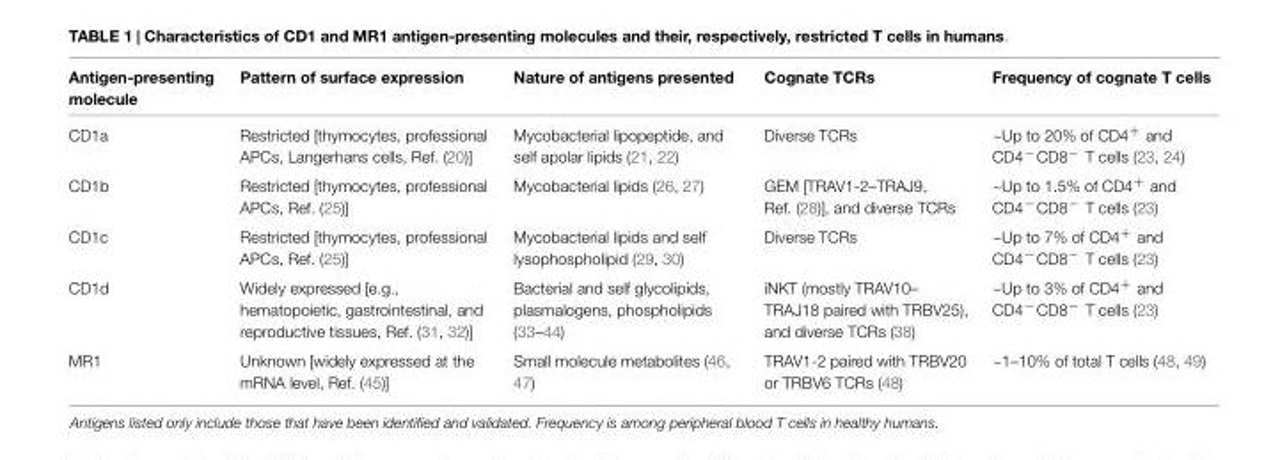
<table><thead><tr><td>Antigen-presenting molecule</td><td>Pattern of surface expression</td><td>Nature of antigens presented</td><td>Cognate TCRs</td><td>Frequency of cognate T cells</td></tr></thead><tbody><tr><td>CD1a</td><td>Restricted [thymocytes, professional APCs, Langerhans cells, Ref. (20)]</td><td>Mycobacterial lipopeptide, and self apolar lipids (21, 22)</td><td>Diverse TCRs</td><td>~Up to 20% of CD4<sup>+</sup> and CD4<sup>−</sup>CD8<sup>−</sup> T cells (23, 24)</td></tr><tr><td>CD1b</td><td>Restricted [thymocytes, professional APCs, Ref. (25)]</td><td>Mycobacterial lipids (26, 27)</td><td>GEM [TRAV1-2–TRAJ9, Ref. (28)], and diverse TCRs</td><td>~Up to 1.5% of CD4<sup>+</sup> and CD4<sup>−</sup>CD8<sup>−</sup> T cells (23)</td></tr><tr><td>CD1c</td><td>Restricted [thymocytes, professional APCs, Ref. (25)]</td><td>Mycobacterial lipids and self lysophospholipid (29, 30)</td><td>Diverse TCRs</td><td>~Up to 7% of CD4<sup>+</sup> and CD4<sup>−</sup>CD8<sup>−</sup> T cells (23)</td></tr><tr><td>CD1d</td><td>Widely expressed [e.g., hematopoietic, gastrointestinal, and reproductive tissues, Ref. (31, 32)]</td><td>Bacterial and self glycolipids, plasmalogens, phospholipids (33–44)</td><td>iNKT (mostly TRAV10– TRAJ18 paired with TRBV25), and diverse TCRs (38)</td><td>~Up to 3% of CD4<sup>+</sup> and CD4<sup>−</sup>CD8<sup>−</sup> T cells (23)</td></tr><tr><td>MR1</td><td>Unknown [widely expressed at the mRNA level, Ref. (45)]</td><td>Small molecule metabolites (46, 47)</td><td>TRAV1-2 paired with TRBV20 or TRBV6 TCRs (48)</td><td>~1–10% of total T cells (48, 49)</td></tr></tbody></table>